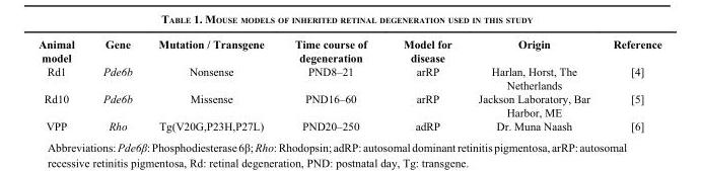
<table><thead><tr><td>Animal model</td><td>Gene</td><td>Mutation / Transgene</td><td>Time course of degeneration</td><td>Model for disease</td><td>Origin</td><td>Reference</td></tr></thead><tbody><tr><td>Rd1</td><td>Pde6b</td><td>Nonsense</td><td>PND8–21</td><td>arRP</td><td>Harlan, Horst, The Netherlands</td><td>[4]</td></tr><tr><td>Rd10</td><td>Pde6b</td><td>Missense</td><td>PND16–60</td><td>arRP</td><td>Jackson Laboratory, Bar Harbor, ME</td><td>[5]</td></tr><tr><td>VPP</td><td>Rho</td><td>Tg(V20G,P23H,P27L)</td><td>PND20–250</td><td>adRP</td><td>Dr. Muna Naash</td><td>[6]</td></tr></tbody></table>